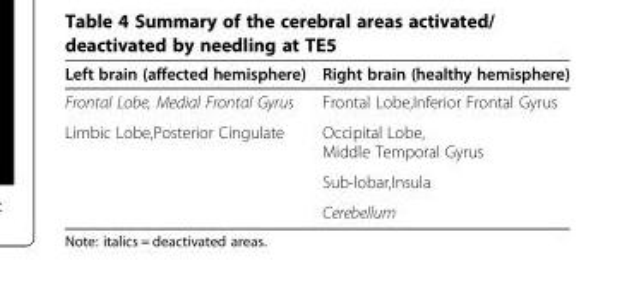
<table><thead><tr><td>Left brain (affected hemisphere)</td><td>Right brain (healthy hemisphere)</td></tr></thead><tbody><tr><td>Frontal Lobe, Medial Frontal Gyrus</td><td>Frontal Lobe,Inferior Frontal Gyrus</td></tr><tr><td rowspan="3">Limbic Lobe,Posterior Cingulate</td><td>Occipital Lobe, Middle Temporal Gyrus</td></tr><tr><td>Sub-lobar,Insula</td></tr><tr><td>Cerebellum</td></tr></tbody></table>